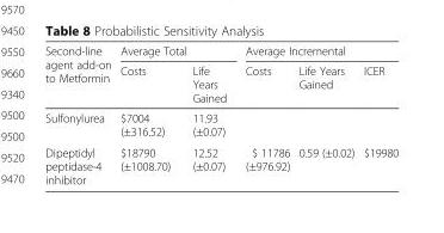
<table><thead><tr><td rowspan="2">Second-line agent add-on to Metformin</td><td colspan="2">Average Total</td><td colspan="3">Average Incremental</td></tr><tr><td>Costs</td><td>Life Years Gained</td><td>Costs</td><td>Life Years Gained</td><td>ICER</td></tr></thead><tbody><tr><td>Sulfonylurea</td><td>$7004 (±316.52)</td><td>11.93 (±0.07)</td><td></td><td></td><td></td></tr><tr><td>Dipeptidyl peptidase-4 inhibitor</td><td>$18790 (±1008.70)</td><td>12.52 (±0.07)</td><td>$ 11786 (±976.92)</td><td>0.59 (±0.02)</td><td>$19980</td></tr></tbody></table>